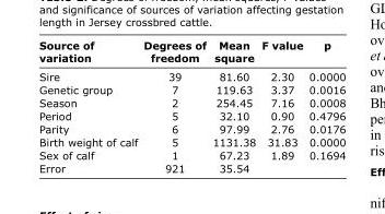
<table><thead><tr><td>Source of variation</td><td>Degrees of freedom</td><td>Mean square</td><td>F value</td><td>p</td></tr></thead><tbody><tr><td>Sire</td><td>39</td><td>81.60</td><td>2.30</td><td>0.0000</td></tr><tr><td>Genetic group</td><td>7</td><td>119.63</td><td>3.37</td><td>0.0016</td></tr><tr><td>Season</td><td>2</td><td>254.45</td><td>7.16</td><td>0.0008</td></tr><tr><td>Period</td><td>5</td><td>32.10</td><td>0.90</td><td>0.4796</td></tr><tr><td>Parity</td><td>6</td><td>97.99</td><td>2.76</td><td>0.0176</td></tr><tr><td>Birth weight of calf</td><td>5</td><td>1131.38</td><td>31.83</td><td>0.0000</td></tr><tr><td>Sex of calf</td><td>1</td><td>67.23</td><td>1.89</td><td>0.1694</td></tr><tr><td>Error</td><td>921</td><td>35.54</td><td></td><td></td></tr></tbody></table>